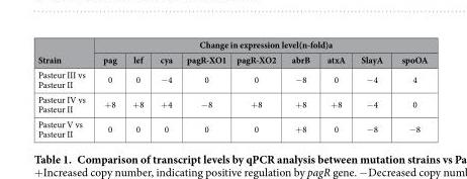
<table><thead><tr><td rowspan="2">Strain</td><td colspan="9">Change in expression level(n-fold)a</td></tr><tr><td>pag</td><td>lef</td><td>cya</td><td>pagR-XO1</td><td>pagR-XO2</td><td>abrB</td><td>atxA</td><td>SlayA</td><td>spoOA</td></tr></thead><tbody><tr><td>Pasteur III vs Pasteur II</td><td>0</td><td>0</td><td>−4</td><td>0</td><td>0</td><td>−8</td><td>0</td><td>−4</td><td>4</td></tr><tr><td>Pasteur IV vs Pasteur II</td><td>+8</td><td>+8</td><td>+4</td><td>−8</td><td>+8</td><td>+8</td><td>+8</td><td>−4</td><td>0</td></tr><tr><td>Pasteur V vs Pasteur II</td><td>0</td><td>0</td><td>0</td><td>0</td><td>0</td><td>+8</td><td>0</td><td>−8</td><td>−8</td></tr></tbody></table>